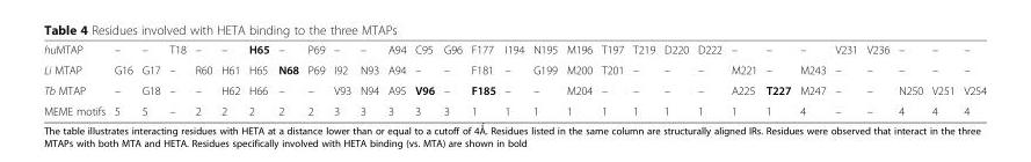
<table><tbody><tr><td>huMTAP</td><td>–</td><td>–</td><td>T18</td><td>–</td><td>–</td><td>H65</td><td>–</td><td>P69</td><td>–</td><td>–</td><td>A94</td><td>C95</td><td>G96</td><td>F177</td><td>I194</td><td>N195</td><td>M196</td><td>T197</td><td>T219</td><td>D220</td><td>D222</td><td>–</td><td>–</td><td>–</td><td>V231</td><td>V236</td><td>–</td><td>–</td><td>–</td></tr><tr><td>Li MTAP</td><td>G16</td><td>G17</td><td>–</td><td>R60</td><td>H61</td><td>H65</td><td>N68</td><td>P69</td><td>I92</td><td>N93</td><td>A94</td><td>–</td><td>–</td><td>F181</td><td>–</td><td>G199</td><td>M200</td><td>T201</td><td>–</td><td>–</td><td>–</td><td>M221</td><td>–</td><td>M243</td><td>–</td><td>–</td><td>–</td><td>–</td><td>–</td></tr><tr><td>Tb MTAP</td><td>–</td><td>G18</td><td>–</td><td>–</td><td>H62</td><td>H66</td><td>–</td><td>–</td><td>V93</td><td>N94</td><td>A95</td><td>V96</td><td>–</td><td>F185</td><td>–</td><td>–</td><td>M204</td><td>–</td><td>–</td><td>–</td><td>–</td><td>A225</td><td>T227</td><td>M247</td><td>–</td><td>–</td><td>N250</td><td>V251</td><td>V254</td></tr><tr><td>MEME motifs</td><td>5</td><td>5</td><td>–</td><td>2</td><td>2</td><td>2</td><td>2</td><td>2</td><td>3</td><td>3</td><td>3</td><td>3</td><td>3</td><td>1</td><td>1</td><td>1</td><td>1</td><td>1</td><td>1</td><td>1</td><td>1</td><td>1</td><td>1</td><td>4</td><td>–</td><td>–</td><td>4</td><td>4</td><td>4</td></tr></tbody></table>